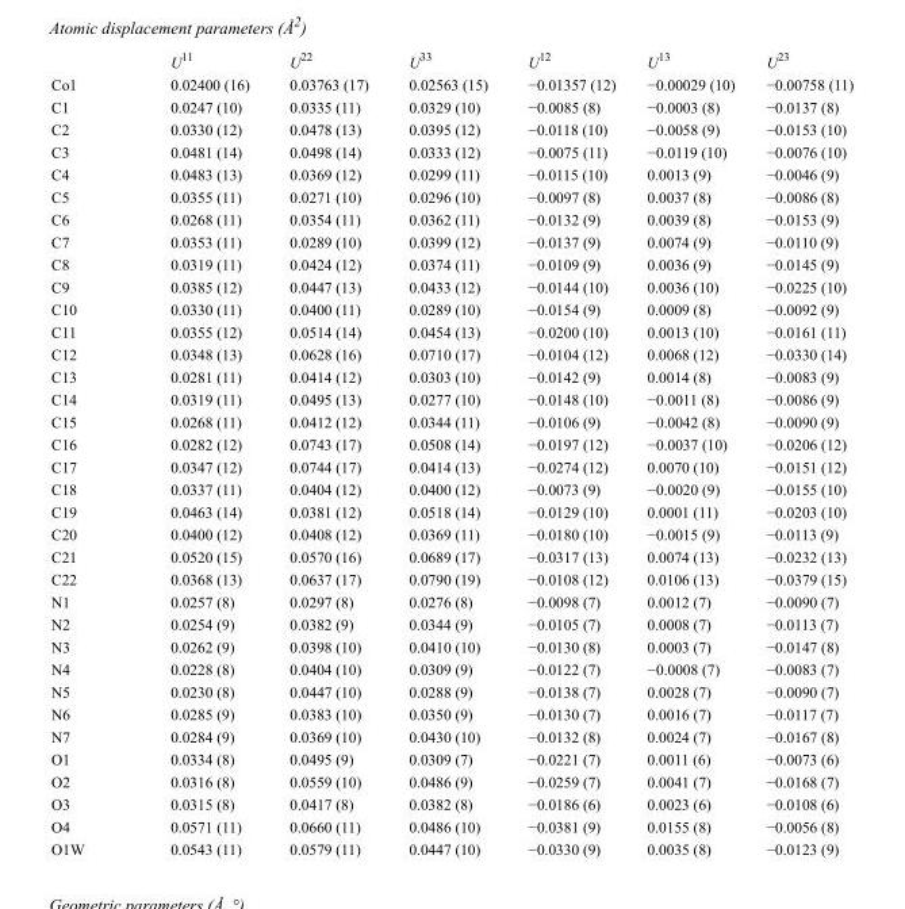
<table><thead><tr><td></td><td>U<sup>11</sup></td><td>U<sup>22</sup></td><td>U<sup>33</sup></td><td>U<sup>12</sup></td><td>U<sup>13</sup></td><td>U<sup>23</sup></td></tr></thead><tbody><tr><td>Co1</td><td>0.02400 (16)</td><td>0.03763 (17)</td><td>0.02563 (15)</td><td>−0.01357 (12)</td><td>−0.00029 (10)</td><td>−0.00758 (11)</td></tr><tr><td>C1</td><td>0.0247 (10)</td><td>0.0335 (11)</td><td>0.0329 (10)</td><td>−0.0085 (8)</td><td>−0.0003 (8)</td><td>−0.0137 (8)</td></tr><tr><td>C2</td><td>0.0330 (12)</td><td>0.0478 (13)</td><td>0.0395 (12)</td><td>−0.0118 (10)</td><td>−0.0058 (9)</td><td>−0.0153 (10)</td></tr><tr><td>C3</td><td>0.0481 (14)</td><td>0.0498 (14)</td><td>0.0333 (12)</td><td>−0.0075 (11)</td><td>−0.0119 (10)</td><td>−0.0076 (10)</td></tr><tr><td>C4</td><td>0.0483 (13)</td><td>0.0369 (12)</td><td>0.0299 (11)</td><td>−0.0115 (10)</td><td>0.0013 (9)</td><td>−0.0046 (9)</td></tr><tr><td>C5</td><td>0.0355 (11)</td><td>0.0271 (10)</td><td>0.0296 (10)</td><td>−0.0097 (8)</td><td>0.0037 (8)</td><td>−0.0086 (8)</td></tr><tr><td>C6</td><td>0.0268 (11)</td><td>0.0354 (11)</td><td>0.0362 (11)</td><td>−0.0132 (9)</td><td>0.0039 (8)</td><td>−0.0153 (9)</td></tr><tr><td>C7</td><td>0.0353 (11)</td><td>0.0289 (10)</td><td>0.0399 (12)</td><td>−0.0137 (9)</td><td>0.0074 (9)</td><td>−0.0110 (9)</td></tr><tr><td>C8</td><td>0.0319 (11)</td><td>0.0424 (12)</td><td>0.0374 (11)</td><td>−0.0109 (9)</td><td>0.0036 (9)</td><td>−0.0145 (9)</td></tr><tr><td>C9</td><td>0.0385 (12)</td><td>0.0447 (13)</td><td>0.0433 (12)</td><td>−0.0144 (10)</td><td>0.0036 (10)</td><td>−0.0225 (10)</td></tr><tr><td>C10</td><td>0.0330 (11)</td><td>0.0400 (11)</td><td>0.0289 (10)</td><td>−0.0154 (9)</td><td>0.0009 (8)</td><td>−0.0092 (9)</td></tr><tr><td>C11</td><td>0.0355 (12)</td><td>0.0514 (14)</td><td>0.0454 (13)</td><td>−0.0200 (10)</td><td>0.0013 (10)</td><td>−0.0161 (11)</td></tr><tr><td>C12</td><td>0.0348 (13)</td><td>0.0628 (16)</td><td>0.0710 (17)</td><td>−0.0104 (12)</td><td>0.0068 (12)</td><td>−0.0330 (14)</td></tr><tr><td>C13</td><td>0.0281 (11)</td><td>0.0414 (12)</td><td>0.0303 (10)</td><td>−0.0142 (9)</td><td>0.0014 (8)</td><td>−0.0083 (9)</td></tr><tr><td>C14</td><td>0.0319 (11)</td><td>0.0495 (13)</td><td>0.0277 (10)</td><td>−0.0148 (10)</td><td>−0.0011 (8)</td><td>−0.0086 (9)</td></tr><tr><td>C15</td><td>0.0268 (11)</td><td>0.0412 (12)</td><td>0.0344 (11)</td><td>−0.0106 (9)</td><td>−0.0042 (8)</td><td>−0.0090 (9)</td></tr><tr><td>C16</td><td>0.0282 (12)</td><td>0.0743 (17)</td><td>0.0508 (14)</td><td>−0.0197 (12)</td><td>−0.0037 (10)</td><td>−0.0206 (12)</td></tr><tr><td>C17</td><td>0.0347 (12)</td><td>0.0744 (17)</td><td>0.0414 (13)</td><td>−0.0274 (12)</td><td>0.0070 (10)</td><td>−0.0151 (12)</td></tr><tr><td>C18</td><td>0.0337 (11)</td><td>0.0404 (12)</td><td>0.0400 (12)</td><td>−0.0073 (9)</td><td>−0.0020 (9)</td><td>−0.0155 (10)</td></tr><tr><td>C19</td><td>0.0463 (14)</td><td>0.0381 (12)</td><td>0.0518 (14)</td><td>−0.0129 (10)</td><td>0.0001 (11)</td><td>−0.0203 (10)</td></tr><tr><td>C20</td><td>0.0400 (12)</td><td>0.0408 (12)</td><td>0.0369 (11)</td><td>−0.0180 (10)</td><td>−0.0015 (9)</td><td>−0.0113 (9)</td></tr><tr><td>C21</td><td>0.0520 (15)</td><td>0.0570 (16)</td><td>0.0689 (17)</td><td>−0.0317 (13)</td><td>0.0074 (13)</td><td>−0.0232 (13)</td></tr><tr><td>C22</td><td>0.0368 (13)</td><td>0.0637 (17)</td><td>0.0790 (19)</td><td>−0.0108 (12)</td><td>0.0106 (13)</td><td>−0.0379 (15)</td></tr><tr><td>N1</td><td>0.0257 (8)</td><td>0.0297 (8)</td><td>0.0276 (8)</td><td>−0.0098 (7)</td><td>0.0012 (7)</td><td>−0.0090 (7)</td></tr><tr><td>N2</td><td>0.0254 (9)</td><td>0.0382 (9)</td><td>0.0344 (9)</td><td>−0.0105 (7)</td><td>0.0008 (7)</td><td>−0.0113 (7)</td></tr><tr><td>N3</td><td>0.0262 (9)</td><td>0.0398 (10)</td><td>0.0410 (10)</td><td>−0.0130 (8)</td><td>0.0003 (7)</td><td>−0.0147 (8)</td></tr><tr><td>N4</td><td>0.0228 (8)</td><td>0.0404 (10)</td><td>0.0309 (9)</td><td>−0.0122 (7)</td><td>−0.0008 (7)</td><td>−0.0083 (7)</td></tr><tr><td>N5</td><td>0.0230 (8)</td><td>0.0447 (10)</td><td>0.0288 (9)</td><td>−0.0138 (7)</td><td>0.0028 (7)</td><td>−0.0090 (7)</td></tr><tr><td>N6</td><td>0.0285 (9)</td><td>0.0383 (10)</td><td>0.0350 (9)</td><td>−0.0130 (7)</td><td>0.0016 (7)</td><td>−0.0117 (7)</td></tr><tr><td>N7</td><td>0.0284 (9)</td><td>0.0369 (10)</td><td>0.0430 (10)</td><td>−0.0132 (8)</td><td>0.0024 (7)</td><td>−0.0167 (8)</td></tr><tr><td>O1</td><td>0.0334 (8)</td><td>0.0495 (9)</td><td>0.0309 (7)</td><td>−0.0221 (7)</td><td>0.0011 (6)</td><td>−0.0073 (6)</td></tr><tr><td>O2</td><td>0.0316 (8)</td><td>0.0559 (10)</td><td>0.0486 (9)</td><td>−0.0259 (7)</td><td>0.0041 (7)</td><td>−0.0168 (7)</td></tr><tr><td>O3</td><td>0.0315 (8)</td><td>0.0417 (8)</td><td>0.0382 (8)</td><td>−0.0186 (6)</td><td>0.0023 (6)</td><td>−0.0108 (6)</td></tr><tr><td>O4</td><td>0.0571 (11)</td><td>0.0660 (11)</td><td>0.0486 (10)</td><td>−0.0381 (9)</td><td>0.0155 (8)</td><td>−0.0056 (8)</td></tr><tr><td>O1W</td><td>0.0543 (11)</td><td>0.0579 (11)</td><td>0.0447 (10)</td><td>−0.0330 (9)</td><td>0.0035 (8)</td><td>−0.0123 (9)</td></tr></tbody></table>